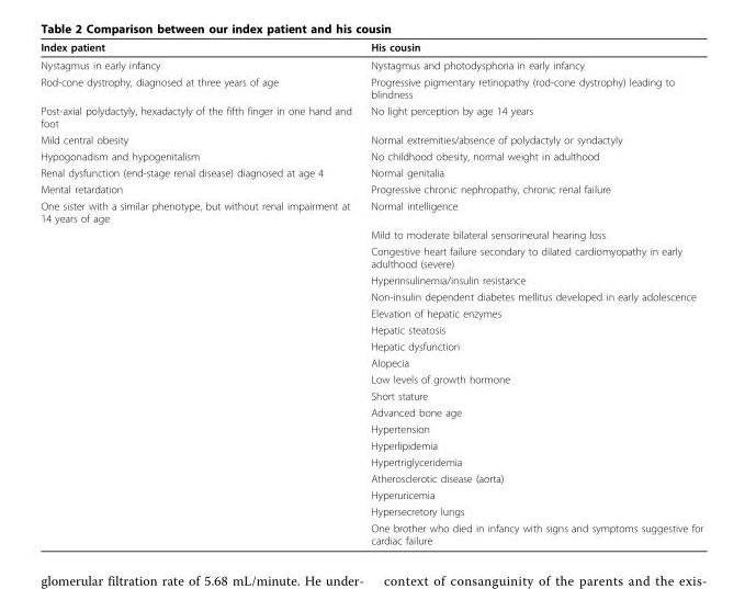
<table><thead><tr><td>Index patient</td><td>His cousin</td></tr></thead><tbody><tr><td>Nystagmus in early infancy</td><td>Nystagmus and photodysphoria in early infancy</td></tr><tr><td>Rod-cone dystrophy, diagnosed at three years of age</td><td>Progressive pigmentary retinopathy (rod-cone dystrophy) leading to blindness</td></tr><tr><td>Post-axial polydactyly, hexadactyly of the fifth finger in one hand and foot</td><td>No light perception by age 14 years</td></tr><tr><td>Mild central obesity</td><td>Normal extremities/absence of polydactyly or syndactyly</td></tr><tr><td>Hypogonadism and hypogenitalism</td><td>No childhood obesity, normal weight in adulthood</td></tr><tr><td>Renal dysfunction (end-stage renal disease) diagnosed at age 4</td><td>Normal genitalia</td></tr><tr><td>Mental retardation</td><td>Progressive chronic nephropathy, chronic renal failure</td></tr><tr><td rowspan="19">One sister with a similar phenotype, but without renal impairment at 14 years of age</td><td>Normal intelligence</td></tr><tr><td>Mild to moderate bilateral sensorineural hearing loss</td></tr><tr><td>Congestive heart failure secondary to dilated cardiomyopathy in early adulthood (severe)</td></tr><tr><td>Hyperinsulinemia/insulin resistance</td></tr><tr><td>Non-insulin dependent diabetes mellitus developed in early adolescence</td></tr><tr><td>Elevation of hepatic enzymes</td></tr><tr><td>Hepatic steatosis</td></tr><tr><td>Hepatic dysfunction</td></tr><tr><td>Alopecia</td></tr><tr><td>Low levels of growth hormone</td></tr><tr><td>Short stature</td></tr><tr><td>Advanced bone age</td></tr><tr><td>Hypertension</td></tr><tr><td>Hyperlipidemia</td></tr><tr><td>Hypertriglyceridemia</td></tr><tr><td>Atherosclerotic disease (aorta)</td></tr><tr><td>Hyperuricemia</td></tr><tr><td>Hypersecretory lungs</td></tr><tr><td>One brother who died in infancy with signs and symptoms suggestive for cardiac failure</td></tr></tbody></table>